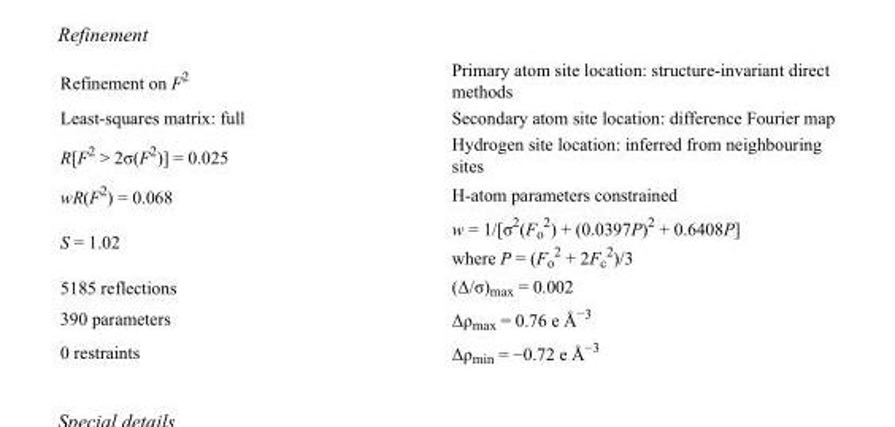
<table><tbody><tr><td>Refinement on F<sup>2</sup></td><td>Primary atom site location: structure-invariant direct methods</td></tr><tr><td>Least-squares matrix: full</td><td>Secondary atom site location: difference Fourier map</td></tr><tr><td>R[F<sup>2</sup> &gt; 2σ(F<sup>2</sup>)] = 0.025</td><td>Hydrogen site location: inferred from neighbouring sites</td></tr><tr><td>wR(F<sup>2</sup>) = 0.068</td><td>H-atom parameters constrained</td></tr><tr><td>S = 1.02</td><td>w = 1/[σ<sup>2</sup>(F<sub>o</sub> <sup>2</sup>) + (0.0397P)<sup>2</sup> + 0.6408P] where P = (F<sub>o</sub> <sup>2</sup> + 2F<sub>c</sub> <sup>2</sup>)/3</td></tr><tr><td>5185 reflections</td><td>(Δ/σ)<sub>max</sub> = 0.002</td></tr><tr><td>390 parameters</td><td>Δρ<sub>max</sub> = 0.76 e Å<sup>−3</sup></td></tr><tr><td>0 restraints</td><td>Δρ<sub>min</sub> = −0.72 e Å<sup>−3</sup></td></tr></tbody></table>